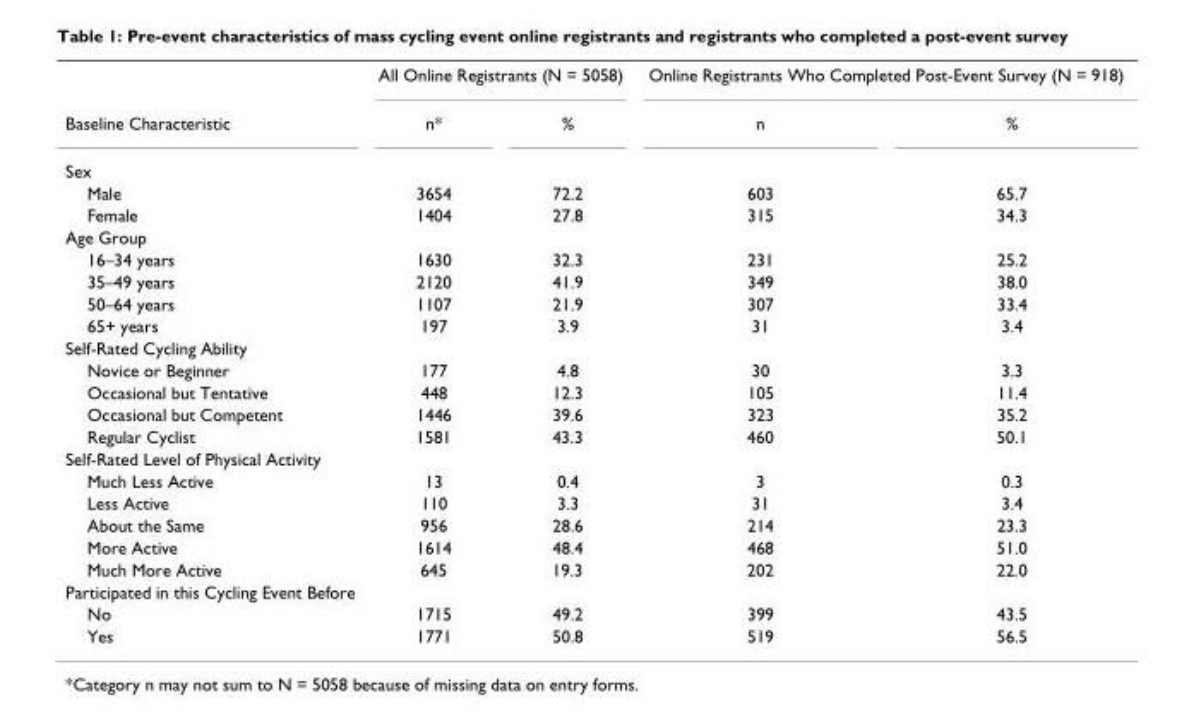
<table><thead><tr><td rowspan="2">Baseline Characteristic</td><td colspan="2">All Online Registrants (N = 5058)</td><td colspan="2">Online Registrants Who Completed Post-Event Survey (N = 918)</td></tr><tr><td>n*</td><td>%</td><td>n</td><td>%</td></tr></thead><tbody><tr><td colspan="5">Sex</td></tr><tr><td>Male</td><td>3654</td><td>72.2</td><td>603</td><td>65.7</td></tr><tr><td>Female</td><td>1404</td><td>27.8</td><td>315</td><td>34.3</td></tr><tr><td colspan="5">Age Group</td></tr><tr><td>16–34 years</td><td>1630</td><td>32.3</td><td>231</td><td>25.2</td></tr><tr><td>35–49 years</td><td>2120</td><td>41.9</td><td>349</td><td>38.0</td></tr><tr><td>50–64 years</td><td>1107</td><td>21.9</td><td>307</td><td>33.4</td></tr><tr><td>65+ years</td><td>197</td><td>3.9</td><td>31</td><td>3.4</td></tr><tr><td colspan="5">Self-Rated Cycling Ability</td></tr><tr><td>Novice or Beginner</td><td>177</td><td>4.8</td><td>30</td><td>3.3</td></tr><tr><td>Occasional but Tentative</td><td>448</td><td>12.3</td><td>105</td><td>11.4</td></tr><tr><td>Occasional but Competent</td><td>1446</td><td>39.6</td><td>323</td><td>35.2</td></tr><tr><td>Regular Cyclist</td><td>1581</td><td>43.3</td><td>460</td><td>50.1</td></tr><tr><td colspan="5">Self-Rated Level of Physical Activity</td></tr><tr><td>Much Less Active</td><td>13</td><td>0.4</td><td>3</td><td>0.3</td></tr><tr><td>Less Active</td><td>110</td><td>3.3</td><td>31</td><td>3.4</td></tr><tr><td>About the Same</td><td>956</td><td>28.6</td><td>214</td><td>23.3</td></tr><tr><td>More Active</td><td>1614</td><td>48.4</td><td>468</td><td>51.0</td></tr><tr><td>Much More Active</td><td>645</td><td>19.3</td><td>202</td><td>22.0</td></tr><tr><td colspan="5">Participated in this Cycling Event Before</td></tr><tr><td>No</td><td>1715</td><td>49.2</td><td>399</td><td>43.5</td></tr><tr><td>Yes</td><td>1771</td><td>50.8</td><td>519</td><td>56.5</td></tr></tbody></table>